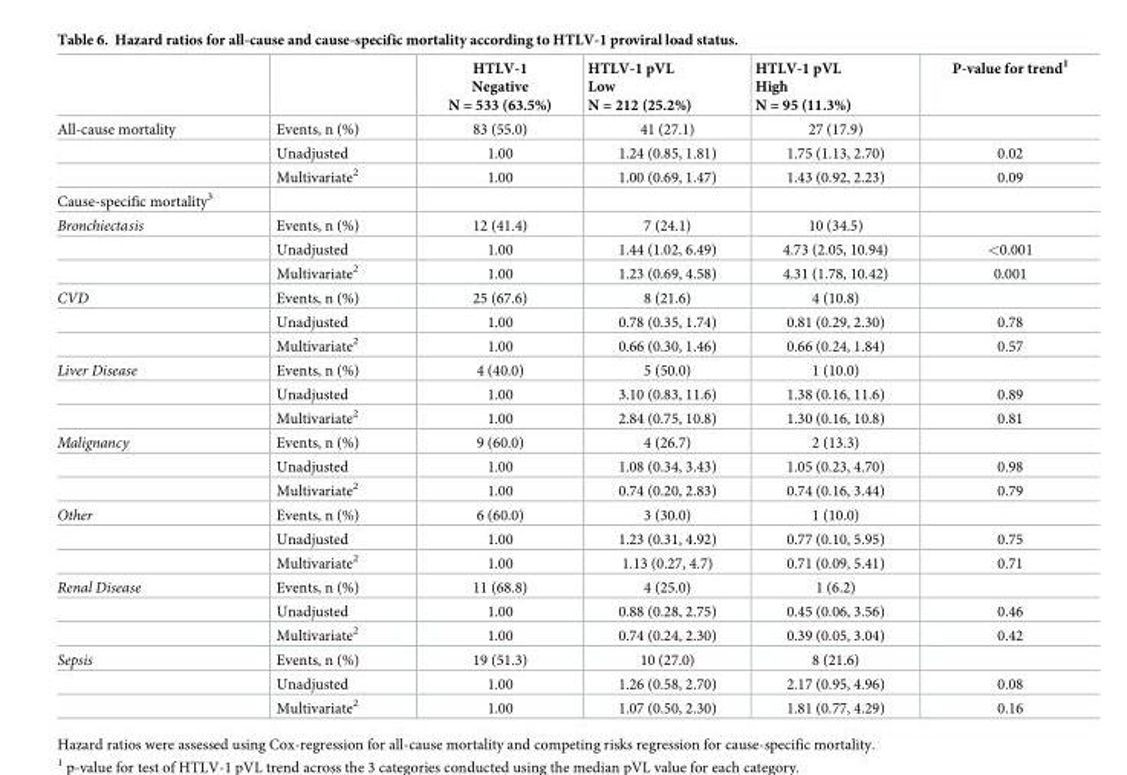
<table><thead><tr><td></td><td></td><td>HTLV-1 Negative N = 533 (63.5%)</td><td>HTLV-1 pVL Low N = 212 (25.2%)</td><td>HTLV-1 pVL High N = 95 (11.3%)</td><td>P-value for trend<sup>1</sup></td></tr></thead><tbody><tr><td rowspan="3">All-cause mortality</td><td>Events, n (%)</td><td>83 (55.0)</td><td>41 (27.1)</td><td>27 (17.9)</td><td></td></tr><tr><td>Unadjusted</td><td>1.00</td><td>1.24 (0.85, 1.81)</td><td>1.75 (1.13, 2.70)</td><td>0.02</td></tr><tr><td>Multivariate<sup>2</sup></td><td>1.00</td><td>1.00 (0.69, 1.47)</td><td>1.43 (0.92, 2.23)</td><td>0.09</td></tr><tr><td colspan="6">Cause-specific mortality<sup>3</sup></td></tr><tr><td rowspan="3">Bronchiectasis</td><td>Events, n (%)</td><td>12 (41.4)</td><td>7 (24.1)</td><td>10 (34.5)</td><td></td></tr><tr><td>Unadjusted</td><td>1.00</td><td>1.44 (1.02, 6.49)</td><td>4.73 (2.05, 10.94)</td><td>&lt;0.001</td></tr><tr><td>Multivariate<sup>2</sup></td><td>1.00</td><td>1.23 (0.69, 4.58)</td><td>4.31 (1.78, 10.42)</td><td>0.001</td></tr><tr><td rowspan="3">CVD</td><td>Events, n (%)</td><td>25 (67.6)</td><td>8 (21.6)</td><td>4 (10.8)</td><td></td></tr><tr><td>Unadjusted</td><td>1.00</td><td>0.78 (0.35, 1.74)</td><td>0.81 (0.29, 2.30)</td><td>0.78</td></tr><tr><td>Multivariate<sup>2</sup></td><td>1.00</td><td>0.66 (0.30, 1.46)</td><td>0.66 (0.24, 1.84)</td><td>0.57</td></tr><tr><td rowspan="3">Liver Disease</td><td>Events, n (%)</td><td>4 (40.0)</td><td>5 (50.0)</td><td>1 (10.0)</td><td></td></tr><tr><td>Unadjusted</td><td>1.00</td><td>3.10 (0.83, 11.6)</td><td>1.38 (0.16, 11.6)</td><td>0.89</td></tr><tr><td>Multivariate<sup>2</sup></td><td>1.00</td><td>2.84 (0.75, 10.8)</td><td>1.30 (0.16, 10.8)</td><td>0.81</td></tr><tr><td rowspan="3">Malignancy</td><td>Events, n (%)</td><td>9 (60.0)</td><td>4 (26.7)</td><td>2 (13.3)</td><td></td></tr><tr><td>Unadjusted</td><td>1.00</td><td>1.08 (0.34, 3.43)</td><td>1.05 (0.23, 4.70)</td><td>0.98</td></tr><tr><td>Multivariate<sup>2</sup></td><td>1.00</td><td>0.74 (0.20, 2.83)</td><td>0.74 (0.16, 3.44)</td><td>0.79</td></tr><tr><td rowspan="3">Other</td><td>Events, n (%)</td><td>6 (60.0)</td><td>3 (30.0)</td><td>1 (10.0)</td><td></td></tr><tr><td>Unadjusted</td><td>1.00</td><td>1.23 (0.31, 4.92)</td><td>0.77 (0.10, 5.95)</td><td>0.75</td></tr><tr><td>Multivariate<sup>2</sup></td><td>1.00</td><td>1.13 (0.27, 4.7)</td><td>0.71 (0.09, 5.41)</td><td>0.71</td></tr><tr><td rowspan="3">Renal Disease</td><td>Events, n (%)</td><td>11 (68.8)</td><td>4 (25.0)</td><td>1 (6.2)</td><td></td></tr><tr><td>Unadjusted</td><td>1.00</td><td>0.88 (0.28, 2.75)</td><td>0.45 (0.06, 3.56)</td><td>0.46</td></tr><tr><td>Multivariate<sup>2</sup></td><td>1.00</td><td>0.74 (0.24, 2.30)</td><td>0.39 (0.05, 3.04)</td><td>0.42</td></tr><tr><td rowspan="3">Sepsis</td><td>Events, n (%)</td><td>19 (51.3)</td><td>10 (27.0)</td><td>8 (21.6)</td><td></td></tr><tr><td>Unadjusted</td><td>1.00</td><td>1.26 (0.58, 2.70)</td><td>2.17 (0.95, 4.96)</td><td>0.08</td></tr><tr><td>Multivariate<sup>2</sup></td><td>1.00</td><td>1.07 (0.50, 2.30)</td><td>1.81 (0.77, 4.29)</td><td>0.16</td></tr></tbody></table>